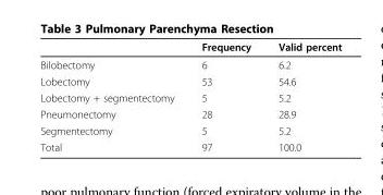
<table><thead><tr><td></td><td>Frequency</td><td>Valid percent</td></tr></thead><tbody><tr><td>Bilobectomy</td><td>6</td><td>6.2</td></tr><tr><td>Lobectomy</td><td>53</td><td>54.6</td></tr><tr><td>Lobectomy + segmentectomy</td><td>5</td><td>5.2</td></tr><tr><td>Pneumonectomy</td><td>28</td><td>28.9</td></tr><tr><td>Segmentectomy</td><td>5</td><td>5.2</td></tr><tr><td>Total</td><td>97</td><td>100.0</td></tr></tbody></table>